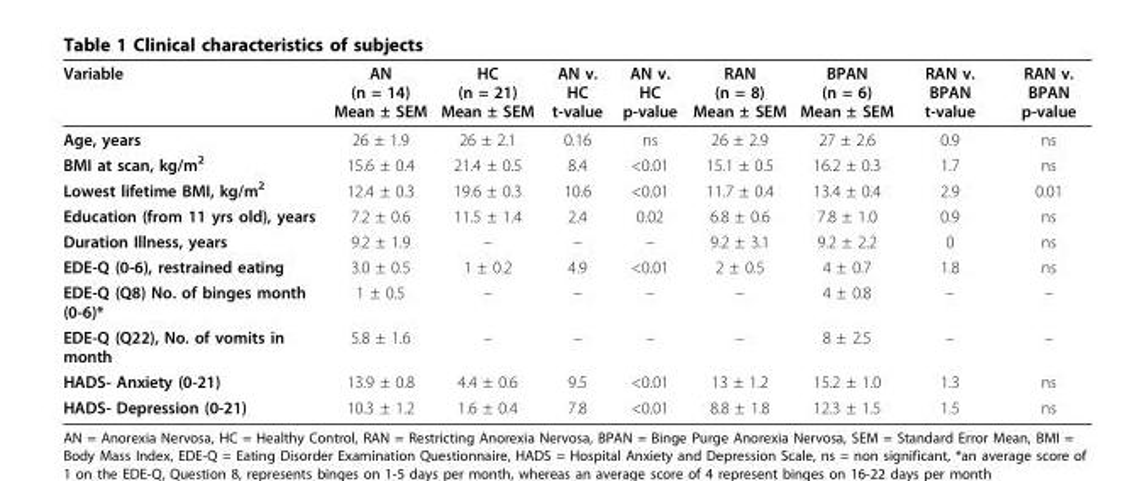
<table><thead><tr><td>Variable</td><td>AN (n = 14) Mean ± SEM</td><td>HC (n = 21) Mean ± SEM</td><td>AN v. HC t-value</td><td>AN v. HC p-value</td><td>RAN (n = 8) Mean ± SEM</td><td>BPAN (n = 6) Mean ± SEM</td><td>RAN v. BPAN t-value</td><td>RAN v. BPAN p-value</td></tr></thead><tbody><tr><td>Age, years</td><td>26 ± 1.9</td><td>26 ± 2.1</td><td>0.16</td><td>ns</td><td>26 ± 2.9</td><td>27 ± 2.6</td><td>0.9</td><td>ns</td></tr><tr><td>BMI at scan, kg/m<sup>2</sup></td><td>15.6 ± 0.4</td><td>21.4 ± 0.5</td><td>8.4</td><td>&lt;0.01</td><td>15.1 ± 0.5</td><td>16.2 ± 0.3</td><td>1.7</td><td>ns</td></tr><tr><td>Lowest lifetime BMI, kg/m<sup>2</sup></td><td>12.4 ± 0.3</td><td>19.6 ± 0.3</td><td>10.6</td><td>&lt;0.01</td><td>11.7 ± 0.4</td><td>13.4 ± 0.4</td><td>2.9</td><td>0.01</td></tr><tr><td>Education (from 11 yrs old), years</td><td>7.2 ± 0.6</td><td>11.5 ± 1.4</td><td>2.4</td><td>0.02</td><td>6.8 ± 0.6</td><td>7.8 ± 1.0</td><td>0.9</td><td>ns</td></tr><tr><td>Duration Illness, years</td><td>9.2 ± 1.9</td><td>–</td><td>–</td><td>–</td><td>9.2 ± 3.1</td><td>9.2 ± 2.2</td><td>0</td><td>ns</td></tr><tr><td>EDE-Q (0-6), restrained eating</td><td>3.0 ± 0.5</td><td>1 ± 0.2</td><td>4.9</td><td>&lt;0.01</td><td>2 ± 0.5</td><td>4 ± 0.7</td><td>1.8</td><td>ns</td></tr><tr><td>EDE-Q (Q8) No. of binges month (0-6)*</td><td>1 ± 0.5</td><td>–</td><td>–</td><td>–</td><td>–</td><td>4 ± 0.8</td><td>–</td><td>–</td></tr><tr><td>EDE-Q (Q22), No. of vomits in month</td><td>5.8 ± 1.6</td><td>–</td><td>–</td><td>–</td><td>–</td><td>8 ± 2.5</td><td>–</td><td>–</td></tr><tr><td>HADS- Anxiety (0-21)</td><td>13.9 ± 0.8</td><td>4.4 ± 0.6</td><td>9.5</td><td>&lt;0.01</td><td>13 ± 1.2</td><td>15.2 ± 1.0</td><td>1.3</td><td>ns</td></tr><tr><td>HADS- Depression (0-21)</td><td>10.3 ± 1.2</td><td>1.6 ± 0.4</td><td>7.8</td><td>&lt;0.01</td><td>8.8 ± 1.8</td><td>12.3 ± 1.5</td><td>1.5</td><td>ns</td></tr></tbody></table>